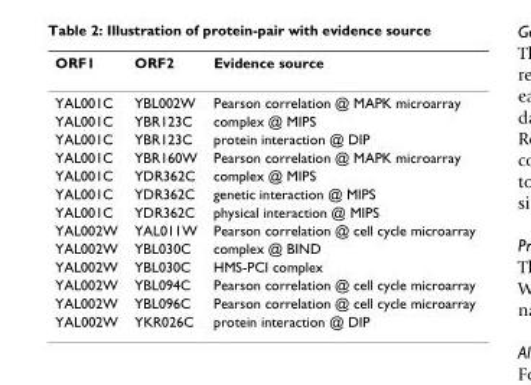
<table><thead><tr><td>ORF1</td><td>ORF2</td><td>Evidence source</td></tr></thead><tbody><tr><td>YAL001C</td><td>YBL002W</td><td>Pearson correlation @ MAPK microarray</td></tr><tr><td>YAL001C</td><td>YBR123C</td><td>complex @ MIPS</td></tr><tr><td>YAL001C</td><td>YBR123C</td><td>protein interaction @ DIP</td></tr><tr><td>YAL001C</td><td>YBR160W</td><td>Pearson correlation @ MAPK microarray</td></tr><tr><td>YAL001C</td><td>YDR362C</td><td>complex @ MIPS</td></tr><tr><td>YAL001C</td><td>YDR362C</td><td>genetic interaction @ MIPS</td></tr><tr><td>YAL001C</td><td>YDR362C</td><td>physical interaction @ MIPS</td></tr><tr><td>YAL002W</td><td>YAL011W</td><td>Pearson correlation @ cell cycle microarray</td></tr><tr><td>YAL002W</td><td>YBL030C</td><td>complex @ BIND</td></tr><tr><td>YAL002W</td><td>YBL030C</td><td>HMS-PCI complex</td></tr><tr><td>YAL002W</td><td>YBL094C</td><td>Pearson correlation @ cell cycle microarray</td></tr><tr><td>YAL002W</td><td>YBL096C</td><td>Pearson correlation @ cell cycle microarray</td></tr><tr><td>YAL002W</td><td>YKR026C</td><td>protein interaction @ DIP</td></tr></tbody></table>